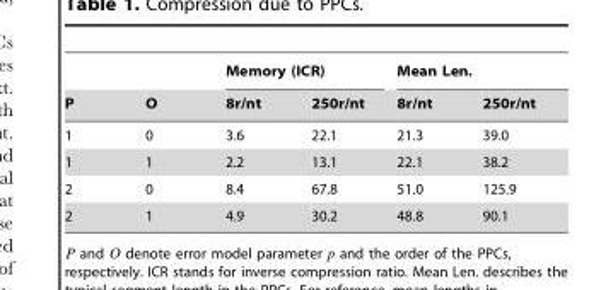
<table><thead><tr><td rowspan="2">P</td><td rowspan="2">O</td><td colspan="2">Memory (ICR)</td><td colspan="2">Mean Len.</td></tr><tr><td>8r/nt</td><td>250r/nt</td><td>8r/nt</td><td>250r/nt</td></tr></thead><tbody><tr><td>1</td><td>0</td><td>3.6</td><td>22.1</td><td>21.3</td><td>39.0</td></tr><tr><td>1</td><td>1</td><td>2.2</td><td>13.1</td><td>22.1</td><td>38.2</td></tr><tr><td>2</td><td>0</td><td>8.4</td><td>67.8</td><td>51.0</td><td>125.9</td></tr><tr><td>2</td><td>1</td><td>4.9</td><td>30.2</td><td>48.8</td><td>90.1</td></tr></tbody></table>